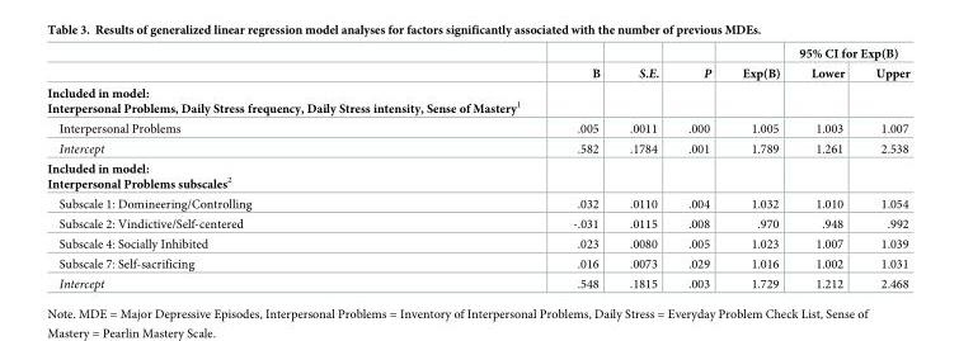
<table><thead><tr><td rowspan="2"></td><td rowspan="2">B</td><td rowspan="2">S.E.</td><td rowspan="2">P</td><td rowspan="2">Exp(B)</td><td colspan="2">95% CI for Exp(B)</td></tr><tr><td>Lower</td><td>Upper</td></tr></thead><tbody><tr><td colspan="7">Included in model: Interpersonal Problems, Daily Stress frequency, Daily Stress intensity, Sense of Mastery<sup>1</sup></td></tr><tr><td>Interpersonal Problems</td><td>.005</td><td>.0011</td><td>.000</td><td>1.005</td><td>1.003</td><td>1.007</td></tr><tr><td>Intercept</td><td>.582</td><td>.1784</td><td>.001</td><td>1.789</td><td>1.261</td><td>2.538</td></tr><tr><td colspan="7">Included in model: Interpersonal Problems subscales<sup>2</sup></td></tr><tr><td>Subscale 1: Domineering/Controlling</td><td>.032</td><td>.0110</td><td>.004</td><td>1.032</td><td>1.010</td><td>1.054</td></tr><tr><td>Subscale 2: Vindictive/Self-centered</td><td>-.031</td><td>.0115</td><td>.008</td><td>.970</td><td>.948</td><td>.992</td></tr><tr><td>Subscale 4: Socially Inhibited</td><td>.023</td><td>.0080</td><td>.005</td><td>1.023</td><td>1.007</td><td>1.039</td></tr><tr><td>Subscale 7: Self-sacrificing</td><td>.016</td><td>.0073</td><td>.029</td><td>1.016</td><td>1.002</td><td>1.031</td></tr><tr><td>Intercept</td><td>.548</td><td>.1815</td><td>.003</td><td>1.729</td><td>1.212</td><td>2.468</td></tr></tbody></table>